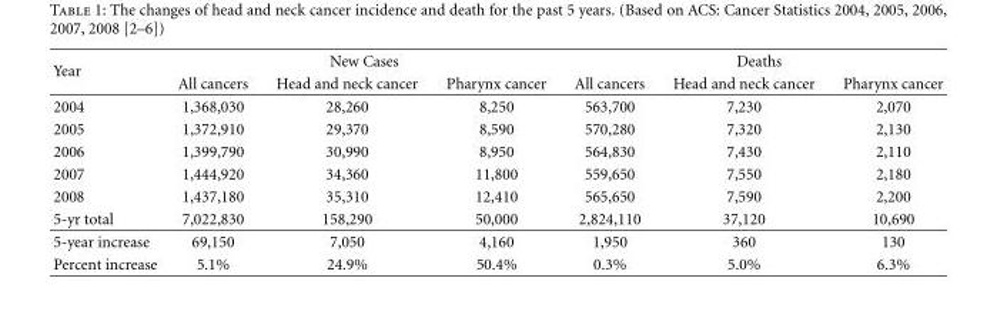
<table><tbody><tr><td rowspan="2">Year</td><td colspan="3">New Cases</td><td colspan="3">Deaths</td></tr><tr><td>All cancers</td><td>Head and neck cancer</td><td>Pharynx cancer</td><td>All cancers</td><td>Head and neck cancer</td><td>Pharynx cancer</td></tr><tr><td>2004</td><td>1,368,030</td><td>28,260</td><td>8,250</td><td>563,700</td><td>7,230</td><td>2,070</td></tr><tr><td>2005</td><td>1,372,910</td><td>29,370</td><td>8,590</td><td>570,280</td><td>7,320</td><td>2,130</td></tr><tr><td>2006</td><td>1,399,790</td><td>30,990</td><td>8,950</td><td>564,830</td><td>7,430</td><td>2,110</td></tr><tr><td>2007</td><td>1,444,920</td><td>34,360</td><td>11,800</td><td>559,650</td><td>7,550</td><td>2,180</td></tr><tr><td>2008</td><td>1,437,180</td><td>35,310</td><td>12,410</td><td>565,650</td><td>7,590</td><td>2,200</td></tr><tr><td>5-yr total</td><td>7,022,830</td><td>158,290</td><td>50,000</td><td>2,824,110</td><td>37,120</td><td>10,690</td></tr><tr><td>5-year increase</td><td>69,150</td><td>7,050</td><td>4,160</td><td>1,950</td><td>360</td><td>130</td></tr><tr><td>Percent increase</td><td>5.1%</td><td>24.9%</td><td>50.4%</td><td>0.3%</td><td>5.0%</td><td>6.3%</td></tr></tbody></table>